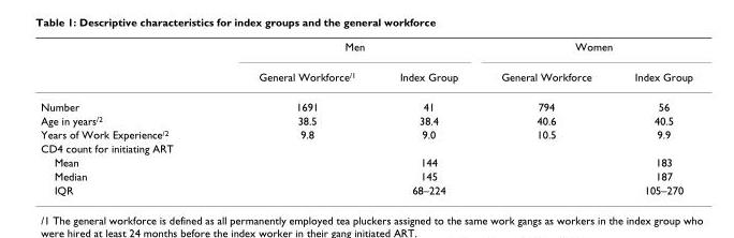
<table><thead><tr><td rowspan="2"></td><td colspan="2">Men</td><td colspan="2">Women</td></tr><tr><td>General Workforce<sup>/1</sup></td><td>Index Group</td><td>General Workforce</td><td>Index Group</td></tr></thead><tbody><tr><td>Number</td><td>1691</td><td>41</td><td>794</td><td>56</td></tr><tr><td>Age in years<sup>/2</sup></td><td>38.5</td><td>38.4</td><td>40.6</td><td>40.5</td></tr><tr><td>Years of Work Experience<sup>/2</sup></td><td>9.8</td><td>9.0</td><td>10.5</td><td>9.9</td></tr><tr><td colspan="5">CD4 count for initiating ART</td></tr><tr><td>Mean</td><td></td><td>144</td><td></td><td>183</td></tr><tr><td>Median</td><td></td><td>145</td><td></td><td>187</td></tr><tr><td>IQR</td><td></td><td>68–224</td><td></td><td>105–270</td></tr></tbody></table>